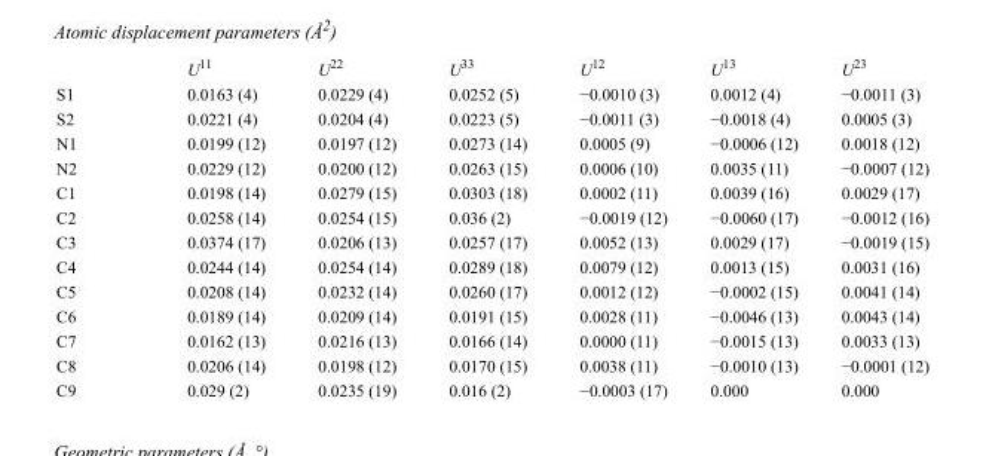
<table><thead><tr><td></td><td>U<sup>11</sup></td><td>U<sup>22</sup></td><td>U<sup>33</sup></td><td>U<sup>12</sup></td><td>U<sup>13</sup></td><td>U<sup>23</sup></td></tr></thead><tbody><tr><td>S1</td><td>0.0163 (4)</td><td>0.0229 (4)</td><td>0.0252 (5)</td><td>−0.0010 (3)</td><td>0.0012 (4)</td><td>−0.0011 (3)</td></tr><tr><td>S2</td><td>0.0221 (4)</td><td>0.0204 (4)</td><td>0.0223 (5)</td><td>−0.0011 (3)</td><td>−0.0018 (4)</td><td>0.0005 (3)</td></tr><tr><td>N1</td><td>0.0199 (12)</td><td>0.0197 (12)</td><td>0.0273 (14)</td><td>0.0005 (9)</td><td>−0.0006 (12)</td><td>0.0018 (12)</td></tr><tr><td>N2</td><td>0.0229 (12)</td><td>0.0200 (12)</td><td>0.0263 (15)</td><td>0.0006 (10)</td><td>0.0035 (11)</td><td>−0.0007 (12)</td></tr><tr><td>C1</td><td>0.0198 (14)</td><td>0.0279 (15)</td><td>0.0303 (18)</td><td>0.0002 (11)</td><td>0.0039 (16)</td><td>0.0029 (17)</td></tr><tr><td>C2</td><td>0.0258 (14)</td><td>0.0254 (15)</td><td>0.036 (2)</td><td>−0.0019 (12)</td><td>−0.0060 (17)</td><td>−0.0012 (16)</td></tr><tr><td>C3</td><td>0.0374 (17)</td><td>0.0206 (13)</td><td>0.0257 (17)</td><td>0.0052 (13)</td><td>0.0029 (17)</td><td>−0.0019 (15)</td></tr><tr><td>C4</td><td>0.0244 (14)</td><td>0.0254 (14)</td><td>0.0289 (18)</td><td>0.0079 (12)</td><td>0.0013 (15)</td><td>0.0031 (16)</td></tr><tr><td>C5</td><td>0.0208 (14)</td><td>0.0232 (14)</td><td>0.0260 (17)</td><td>0.0012 (12)</td><td>−0.0002 (15)</td><td>0.0041 (14)</td></tr><tr><td>C6</td><td>0.0189 (14)</td><td>0.0209 (14)</td><td>0.0191 (15)</td><td>0.0028 (11)</td><td>−0.0046 (13)</td><td>0.0043 (14)</td></tr><tr><td>C7</td><td>0.0162 (13)</td><td>0.0216 (13)</td><td>0.0166 (14)</td><td>0.0000 (11)</td><td>−0.0015 (13)</td><td>0.0033 (13)</td></tr><tr><td>C8</td><td>0.0206 (14)</td><td>0.0198 (12)</td><td>0.0170 (15)</td><td>0.0038 (11)</td><td>−0.0010 (13)</td><td>−0.0001 (12)</td></tr><tr><td>C9</td><td>0.029 (2)</td><td>0.0235 (19)</td><td>0.016 (2)</td><td>−0.0003 (17)</td><td>0.000</td><td>0.000</td></tr></tbody></table>